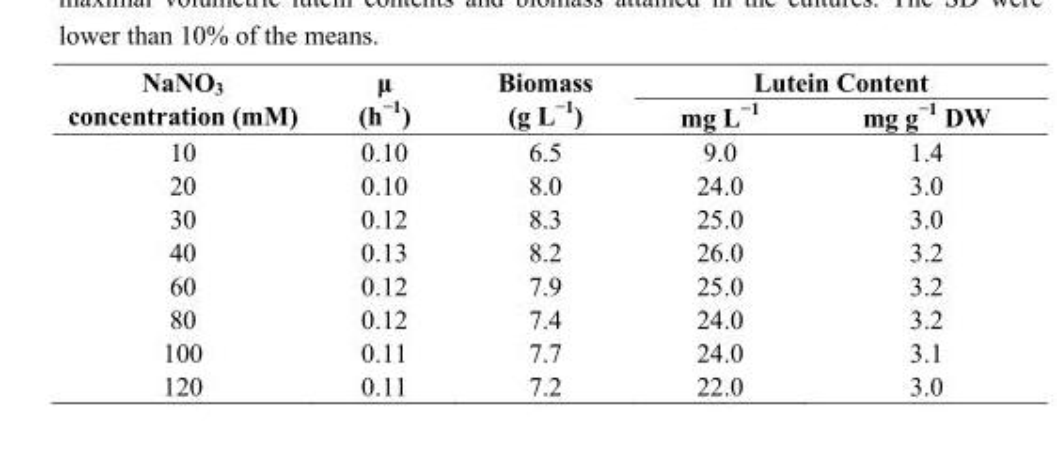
<table><thead><tr><td rowspan="2">NaNO<sub>3</sub> concentration (mM)</td><td rowspan="2">μ (h<sup>−1</sup>)</td><td rowspan="2">Biomass (g L<sup>−1</sup>)</td><td colspan="2">Lutein Content</td></tr><tr><td>mg L<sup>−1</sup></td><td>mg g<sup>−1</sup> DW</td></tr></thead><tbody><tr><td>10</td><td>0.10</td><td>6.5</td><td>9.0</td><td>1.4</td></tr><tr><td>20</td><td>0.10</td><td>8.0</td><td>24.0</td><td>3.0</td></tr><tr><td>30</td><td>0.12</td><td>8.3</td><td>25.0</td><td>3.0</td></tr><tr><td>40</td><td>0.13</td><td>8.2</td><td>26.0</td><td>3.2</td></tr><tr><td>60</td><td>0.12</td><td>7.9</td><td>25.0</td><td>3.2</td></tr><tr><td>80</td><td>0.12</td><td>7.4</td><td>24.0</td><td>3.2</td></tr><tr><td>100</td><td>0.11</td><td>7.7</td><td>24.0</td><td>3.1</td></tr><tr><td>120</td><td>0.11</td><td>7.2</td><td>22.0</td><td>3.0</td></tr></tbody></table>